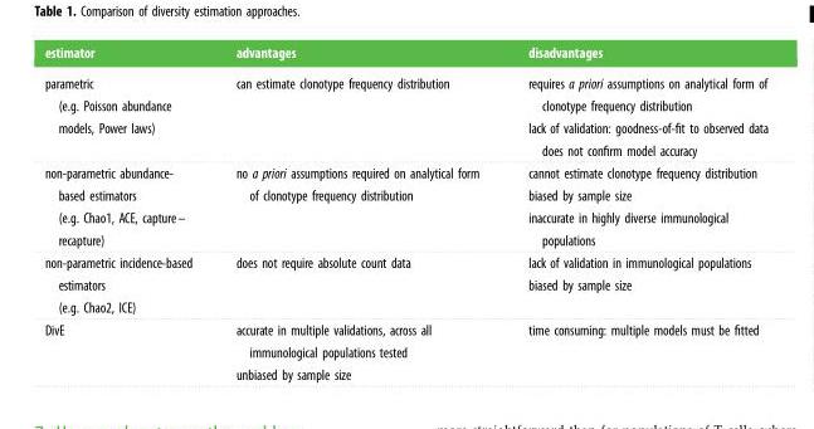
<table><thead><tr><td>estimator</td><td>advantages</td><td>disadvantages</td></tr></thead><tbody><tr><td>parametric (e.g. Poisson abundance models, Power laws)</td><td>can estimate clonotype frequency distribution</td><td>requires a priori assumptions on analytical form of clonotype frequency distribution lack of validation: goodness-of-fit to observed data does not confirm model accuracy</td></tr><tr><td>non-parametric abundance- based estimators (e.g. Chao1, ACE, capture– recapture)</td><td>no a priori assumptions required on analytical form of clonotype frequency distribution</td><td>cannot estimate clonotype frequency distribution biased by sample size inaccurate in highly diverse immunological populations</td></tr><tr><td>non-parametric incidence-based estimators (e.g. Chao2, ICE)</td><td>does not require absolute count data</td><td>lack of validation in immunological populations biased by sample size</td></tr><tr><td>DivE</td><td>accurate in multiple validations, across all immunological populations tested unbiased by sample size</td><td>time consuming: multiple models must be fitted</td></tr></tbody></table>